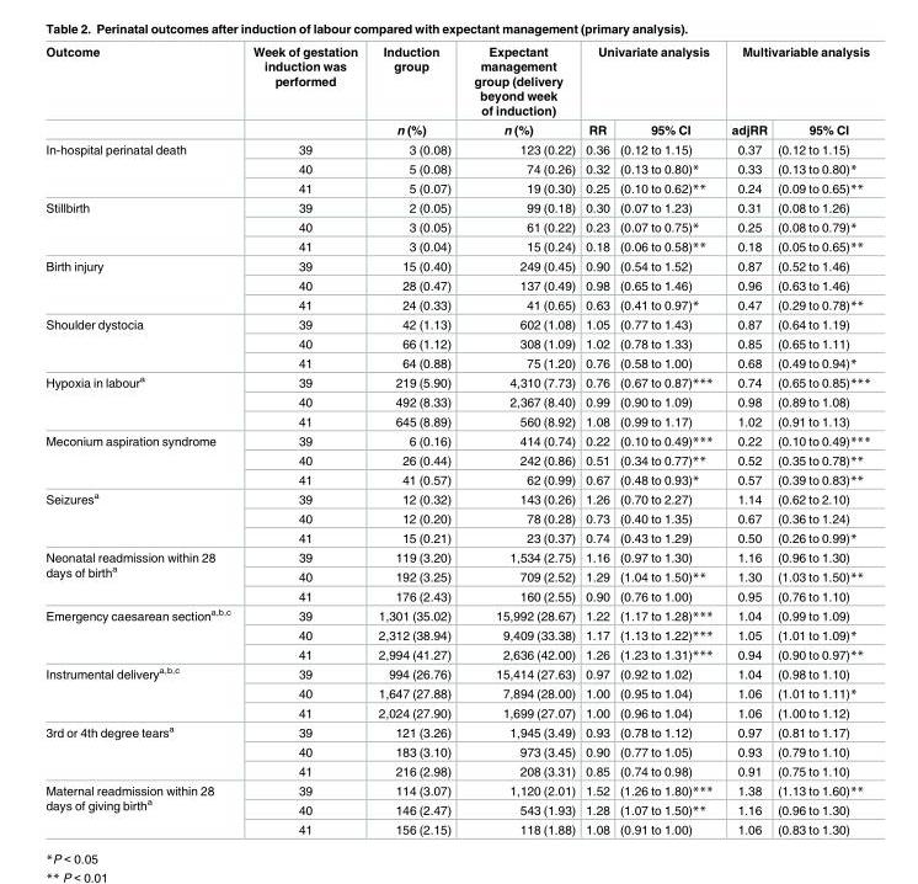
<table><thead><tr><td rowspan="2">Outcome</td><td rowspan="2">Week of gestation induction was performed</td><td rowspan="2">Induction group n (%)</td><td rowspan="2">Expectant management group (delivery beyond week of induction) n (%)</td><td colspan="2">Univariate analysis</td><td colspan="2">Multivariable analysis</td></tr><tr><td>RR</td><td>95% CI</td><td>adjRR</td><td>95% CI</td></tr></thead><tbody><tr><td rowspan="3">In-hospital perinatal death</td><td>39</td><td>3 (0.08)</td><td>123 (0.22)</td><td>0.36</td><td>(0.12 to 1.15)</td><td>0.37</td><td>(0.12 to 1.15)</td></tr><tr><td>40</td><td>5 (0.08)</td><td>74 (0.26)</td><td>0.32</td><td>(0.13 to 0.80)*</td><td>0.33</td><td>(0.13 to 0.80)*</td></tr><tr><td>41</td><td>5 (0.07)</td><td>19 (0.30)</td><td>0.25</td><td>(0.10 to 0.62)**</td><td>0.24</td><td>(0.09 to 0.65)**</td></tr><tr><td rowspan="3">Stillbirth</td><td>39</td><td>2 (0.05)</td><td>99 (0.18)</td><td>0.30</td><td>(0.07 to 1.23)</td><td>0.31</td><td>(0.08 to 1.26)</td></tr><tr><td>40</td><td>3 (0.05)</td><td>61 (0.22)</td><td>0.23</td><td>(0.07 to 0.75)*</td><td>0.25</td><td>(0.08 to 0.79)*</td></tr><tr><td>41</td><td>3 (0.04)</td><td>15 (0.24)</td><td>0.18</td><td>(0.06 to 0.58)**</td><td>0.18</td><td>(0.05 to 0.65)**</td></tr><tr><td rowspan="3">Birth injury</td><td>39</td><td>15 (0.40)</td><td>249 (0.45)</td><td>0.90</td><td>(0.54 to 1.52)</td><td>0.87</td><td>(0.52 to 1.46)</td></tr><tr><td>40</td><td>28 (0.47)</td><td>137 (0.49)</td><td>0.98</td><td>(0.65 to 1.46)</td><td>0.96</td><td>(0.63 to 1.46)</td></tr><tr><td>41</td><td>24 (0.33)</td><td>41 (0.65)</td><td>0.63</td><td>(0.41 to 0.97)*</td><td>0.47</td><td>(0.29 to 0.78)**</td></tr><tr><td rowspan="3">Shoulder dystocia</td><td>39</td><td>42 (1.13)</td><td>602 (1.08)</td><td>1.05</td><td>(0.77 to 1.43)</td><td>0.87</td><td>(0.64 to 1.19)</td></tr><tr><td>40</td><td>66 (1.12)</td><td>308 (1.09)</td><td>1.02</td><td>(0.78 to 1.33)</td><td>0.85</td><td>(0.65 to 1.11)</td></tr><tr><td>41</td><td>64 (0.88)</td><td>75 (1.20)</td><td>0.76</td><td>(0.58 to 1.00)</td><td>0.68</td><td>(0.49 to 0.94)*</td></tr><tr><td rowspan="3">Hypoxia in labour<sup>a</sup></td><td>39</td><td>219 (5.90)</td><td>4,310 (7.73)</td><td>0.76</td><td>(0.67 to 0.87)***</td><td>0.74</td><td>(0.65 to 0.85)***</td></tr><tr><td>40</td><td>492 (8.33)</td><td>2,367 (8.40)</td><td>0.99</td><td>(0.90 to 1.09)</td><td>0.98</td><td>(0.89 to 1.08)</td></tr><tr><td>41</td><td>645 (8.89)</td><td>560 (8.92)</td><td>1.08</td><td>(0.99 to 1.17)</td><td>1.02</td><td>(0.91 to 1.13)</td></tr><tr><td rowspan="3">Meconium aspiration syndrome</td><td>39</td><td>6 (0.16)</td><td>414 (0.74)</td><td>0.22</td><td>(0.10 to 0.49)***</td><td>0.22</td><td>(0.10 to 0.49)***</td></tr><tr><td>40</td><td>26 (0.44)</td><td>242 (0.86)</td><td>0.51</td><td>(0.34 to 0.77)**</td><td>0.52</td><td>(0.35 to 0.78)**</td></tr><tr><td>41</td><td>41 (0.57)</td><td>62 (0.99)</td><td>0.67</td><td>(0.48 to 0.93)*</td><td>0.57</td><td>(0.39 to 0.83)**</td></tr><tr><td rowspan="3">Seizures<sup>a</sup></td><td>39</td><td>12 (0.32)</td><td>143 (0.26)</td><td>1.26</td><td>(0.70 to 2.27)</td><td>1.14</td><td>(0.62 to 2.10)</td></tr><tr><td>40</td><td>12 (0.20)</td><td>78 (0.28)</td><td>0.73</td><td>(0.40 to 1.35)</td><td>0.67</td><td>(0.36 to 1.24)</td></tr><tr><td>41</td><td>15 (0.21)</td><td>23 (0.37)</td><td>0.74</td><td>(0.43 to 1.29)</td><td>0.50</td><td>(0.26 to 0.99)*</td></tr><tr><td rowspan="3">Neonatal readmission within 28 days of birth<sup>a</sup></td><td>39</td><td>119 (3.20)</td><td>1,534 (2.75)</td><td>1.16</td><td>(0.97 to 1.30)</td><td>1.16</td><td>(0.96 to 1.30)</td></tr><tr><td>40</td><td>192 (3.25)</td><td>709 (2.52)</td><td>1.29</td><td>(1.04 to 1.50)**</td><td>1.30</td><td>(1.03 to 1.50)**</td></tr><tr><td>41</td><td>176 (2.43)</td><td>160 (2.55)</td><td>0.90</td><td>(0.76 to 1.00)</td><td>0.95</td><td>(0.76 to 1.10)</td></tr><tr><td rowspan="3">Emergency caesarean section<sup>a,b,c</sup></td><td>39</td><td>1,301 (35.02)</td><td>15,992 (28.67)</td><td>1.22</td><td>(1.17 to 1.28)***</td><td>1.04</td><td>(0.99 to 1.09)</td></tr><tr><td>40</td><td>2,312 (38.94)</td><td>9,409 (33.38)</td><td>1.17</td><td>(1.13 to 1.22)***</td><td>1.05</td><td>(1.01 to 1.09)*</td></tr><tr><td>41</td><td>2,994 (41.27)</td><td>2,636 (42.00)</td><td>1.26</td><td>(1.23 to 1.31)***</td><td>0.94</td><td>(0.90 to 0.97)**</td></tr><tr><td rowspan="3">Instrumental delivery<sup>a,b,c</sup></td><td>39</td><td>994 (26.76)</td><td>15,414 (27.63)</td><td>0.97</td><td>(0.92 to 1.02)</td><td>1.04</td><td>(0.98 to 1.10)</td></tr><tr><td>40</td><td>1,647 (27.88)</td><td>7,894 (28.00)</td><td>1.00</td><td>(0.95 to 1.04)</td><td>1.06</td><td>(1.01 to 1.11)*</td></tr><tr><td>41</td><td>2,024 (27.90)</td><td>1,699 (27.07)</td><td>1.00</td><td>(0.96 to 1.04)</td><td>1.06</td><td>(1.00 to 1.12)</td></tr><tr><td rowspan="3">3rd or 4th degree tears<sup>a</sup></td><td>39</td><td>121 (3.26)</td><td>1,945 (3.49)</td><td>0.93</td><td>(0.78 to 1.12)</td><td>0.97</td><td>(0.81 to 1.17)</td></tr><tr><td>40</td><td>183 (3.10)</td><td>973 (3.45)</td><td>0.90</td><td>(0.77 to 1.05)</td><td>0.93</td><td>(0.79 to 1.10)</td></tr><tr><td>41</td><td>216 (2.98)</td><td>208 (3.31)</td><td>0.85</td><td>(0.74 to 0.98)</td><td>0.91</td><td>(0.75 to 1.10)</td></tr><tr><td rowspan="3">Maternal readmission within 28 days of giving birth<sup>a</sup></td><td>39</td><td>114 (3.07)</td><td>1,120 (2.01)</td><td>1.52</td><td>(1.26 to 1.80)***</td><td>1.38</td><td>(1.13 to 1.60)**</td></tr><tr><td>40</td><td>146 (2.47)</td><td>543 (1.93)</td><td>1.28</td><td>(1.07 to 1.50)**</td><td>1.16</td><td>(0.96 to 1.30)</td></tr><tr><td>41</td><td>156 (2.15)</td><td>118 (1.88)</td><td>1.08</td><td>(0.91 to 1.00)</td><td>1.06</td><td>(0.83 to 1.30)</td></tr></tbody></table>